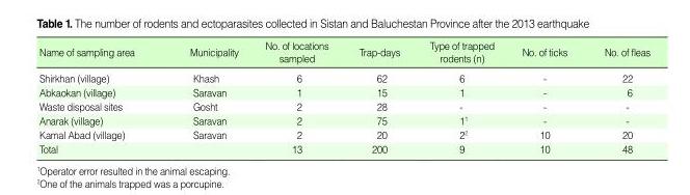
<table><thead><tr><td>Name of sampling area</td><td>Municipality</td><td>No. of locations sampled</td><td>Trap-days</td><td>Type of trapped rodents (n)</td><td>No. of ticks</td><td>No. of fleas</td></tr></thead><tbody><tr><td>Shirkhan (village)</td><td>Khash</td><td>6</td><td>62</td><td>6</td><td>-</td><td>22</td></tr><tr><td>Abkaokan (village)</td><td>Saravan</td><td>1</td><td>15</td><td>1</td><td>-</td><td>6</td></tr><tr><td>Waste disposal sites</td><td>Gosht</td><td>2</td><td>28</td><td>-</td><td>-</td><td>-</td></tr><tr><td>Anarak (village)</td><td>Saravan</td><td>2</td><td>75</td><td>1<sup>1</sup></td><td>-</td><td>-</td></tr><tr><td>Kamal Abad (village)</td><td>Saravan</td><td>2</td><td>20</td><td>2<sup>2</sup></td><td>10</td><td>20</td></tr><tr><td>Total</td><td></td><td>13</td><td>200</td><td>9</td><td>10</td><td>48</td></tr></tbody></table>